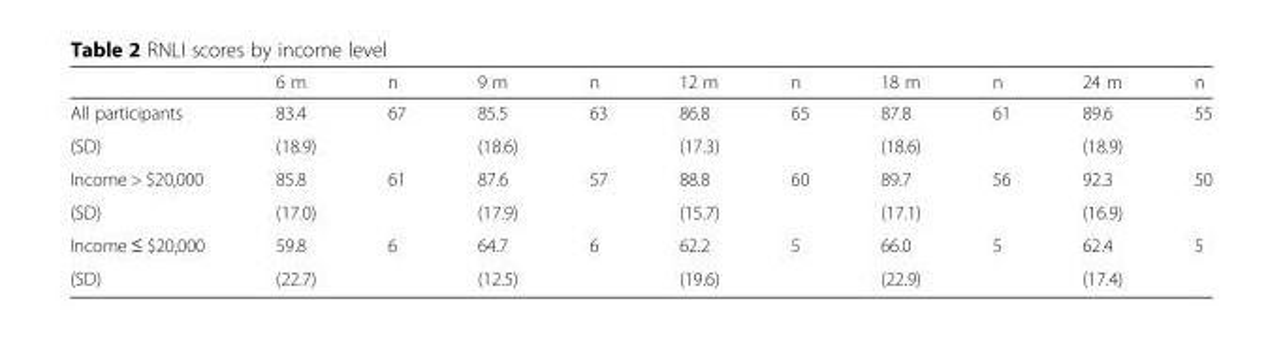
<table><thead><tr><td></td><td>6 m</td><td>n</td><td>9 m</td><td>n</td><td>12 m</td><td>n</td><td>18 m</td><td>n</td><td>24 m</td><td>n</td></tr></thead><tbody><tr><td>All participants</td><td>83.4</td><td>67</td><td>85.5</td><td>63</td><td>86.8</td><td>65</td><td>87.8</td><td>61</td><td>89.6</td><td>55</td></tr><tr><td>(SD)</td><td>(18.9)</td><td></td><td>(18.6)</td><td></td><td>(17.3)</td><td></td><td>(18.6)</td><td></td><td>(18.9)</td><td></td></tr><tr><td>Income &gt; $20,000</td><td>85.8</td><td>61</td><td>87.6</td><td>57</td><td>88.8</td><td>60</td><td>89.7</td><td>56</td><td>92.3</td><td>50</td></tr><tr><td>(SD)</td><td>(17.0)</td><td></td><td>(17.9)</td><td></td><td>(15.7)</td><td></td><td>(17.1)</td><td></td><td>(16.9)</td><td></td></tr><tr><td>Income ≤ $20,000</td><td>59.8</td><td>6</td><td>64.7</td><td>6</td><td>62.2</td><td>5</td><td>66.0</td><td>5</td><td>62.4</td><td>5</td></tr><tr><td>(SD)</td><td>(22.7)</td><td></td><td>(12.5)</td><td></td><td>(19.6)</td><td></td><td>(22.9)</td><td></td><td>(17.4)</td><td></td></tr></tbody></table>